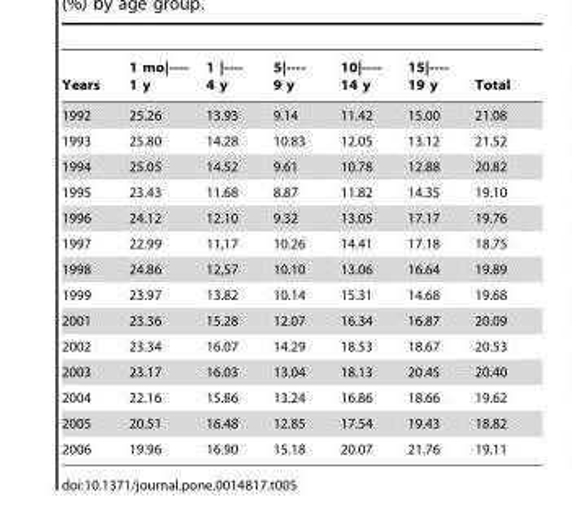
<table><thead><tr><td>Years</td><td>1 mo|---- 1 y</td><td>1 |---- 4 y</td><td>5|---- 9 y</td><td>10|---- 14 y</td><td>15|---- 19 y</td><td>Total</td></tr></thead><tbody><tr><td>1992</td><td>25.26</td><td>13.93</td><td>9.14</td><td>11.42</td><td>15.00</td><td>21.08</td></tr><tr><td>1993</td><td>25.80</td><td>14.28</td><td>10.83</td><td>12.05</td><td>13.12</td><td>21.52</td></tr><tr><td>1994</td><td>25.05</td><td>14.52</td><td>9.61</td><td>10.78</td><td>12.88</td><td>20.82</td></tr><tr><td>1995</td><td>23.43</td><td>11.68</td><td>8.87</td><td>11.82</td><td>14.35</td><td>19.10</td></tr><tr><td>1996</td><td>24.12</td><td>12.10</td><td>9.32</td><td>13.05</td><td>17.17</td><td>19.76</td></tr><tr><td>1997</td><td>22.99</td><td>11,17</td><td>10.26</td><td>14.41</td><td>17.18</td><td>18.75</td></tr><tr><td>1998</td><td>24.86</td><td>12,57</td><td>10.10</td><td>13.06</td><td>16.64</td><td>19.89</td></tr><tr><td>1999</td><td>23.97</td><td>13.82</td><td>10.14</td><td>15.31</td><td>14.68</td><td>19.68</td></tr><tr><td>2001</td><td>23.36</td><td>15.28</td><td>12.07</td><td>16.34</td><td>16.87</td><td>20.09</td></tr><tr><td>2002</td><td>23.34</td><td>16.07</td><td>14.29</td><td>18.53</td><td>18.67</td><td>20.53</td></tr><tr><td>2003</td><td>23.17</td><td>16.03</td><td>13.04</td><td>18.13</td><td>20.45</td><td>20.40</td></tr><tr><td>2004</td><td>22.16</td><td>15.86</td><td>13.24</td><td>16.86</td><td>18.66</td><td>19.62</td></tr><tr><td>2005</td><td>20.51</td><td>16.48</td><td>12.85</td><td>17.54</td><td>19.43</td><td>18.82</td></tr><tr><td>2006</td><td>19.96</td><td>16.90</td><td>15.18</td><td>20.07</td><td>21.76</td><td>19.11</td></tr></tbody></table>